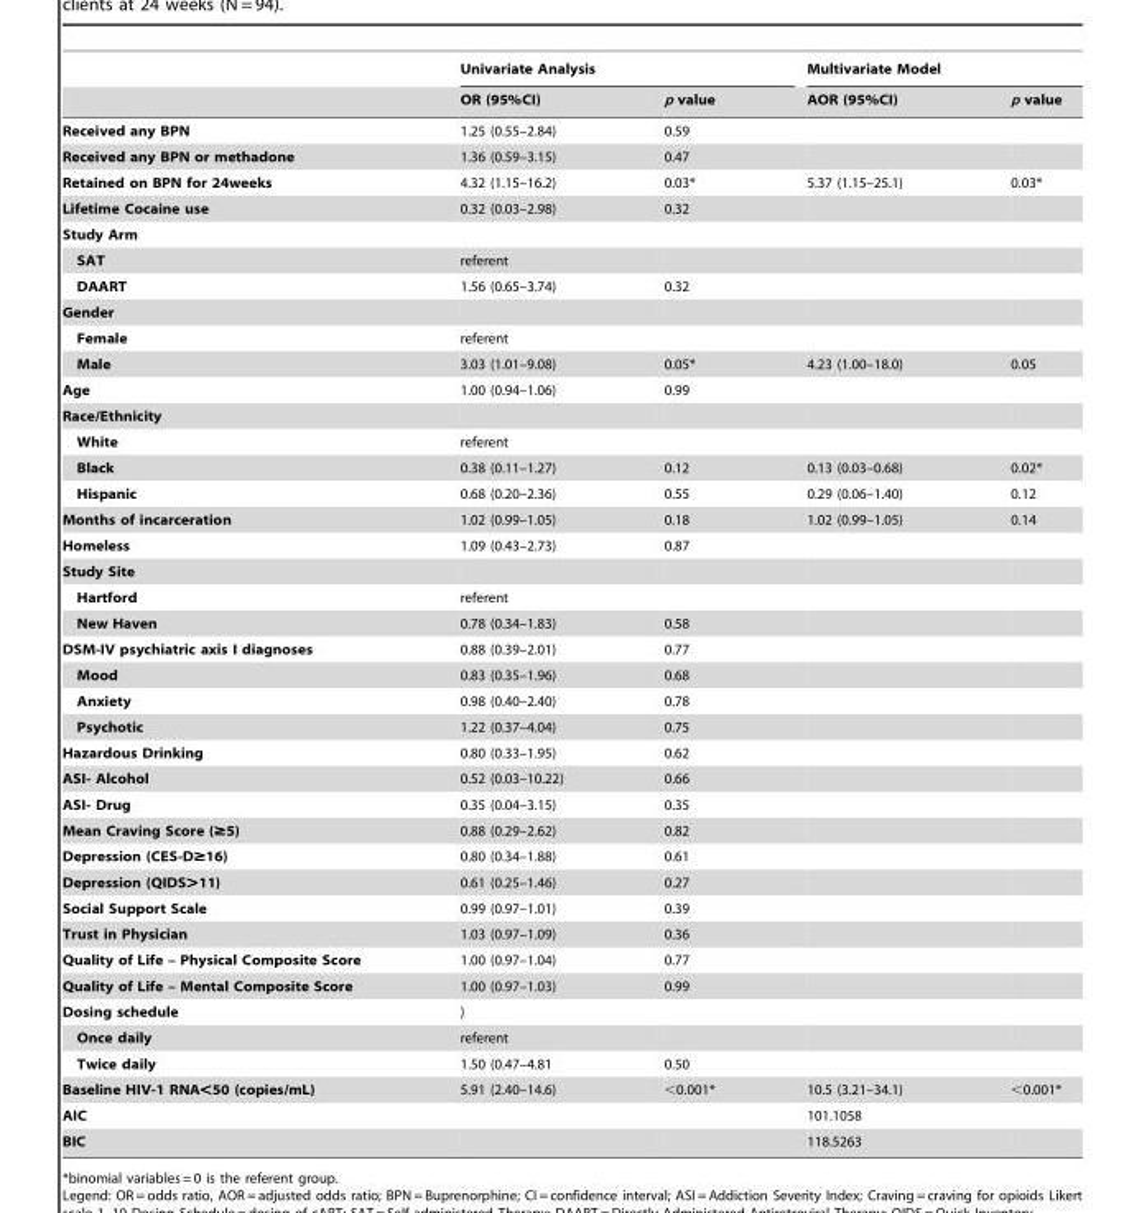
<table><thead><tr><td rowspan="2"></td><td colspan="2">Univariate Analysis</td><td colspan="2">Multivariate Model</td></tr><tr><td>OR (95%CI)</td><td>p value</td><td>AOR (95%CI)</td><td>p value</td></tr></thead><tbody><tr><td>Received any BPN</td><td>1.25 (0.55–2.84)</td><td>0.59</td><td></td><td></td></tr><tr><td>Received any BPN or methadone</td><td>1.36 (0.59–3.15)</td><td>0.47</td><td></td><td></td></tr><tr><td>Retained on BPN for 24weeks</td><td>4.32 (1.15–16.2)</td><td>0.03*</td><td>5.37 (1.15–25.1)</td><td>0.03*</td></tr><tr><td>Lifetime Cocaine use</td><td>0.32 (0.03–2.98)</td><td>0.32</td><td></td><td></td></tr><tr><td colspan="5">Study Arm</td></tr><tr><td>SAT</td><td>referent</td><td></td><td></td><td></td></tr><tr><td>DAART</td><td>1.56 (0.65–3.74)</td><td>0.32</td><td></td><td></td></tr><tr><td colspan="5">Gender</td></tr><tr><td>Female</td><td>referent</td><td></td><td></td><td></td></tr><tr><td>Male</td><td>3.03 (1.01–9.08)</td><td>0.05*</td><td>4.23 (1.00–18.0)</td><td>0.05</td></tr><tr><td>Age</td><td>1.00 (0.94–1.06)</td><td>0.99</td><td></td><td></td></tr><tr><td colspan="5">Race/Ethnicity</td></tr><tr><td>White</td><td>referent</td><td></td><td></td><td></td></tr><tr><td>Black</td><td>0.38 (0.11–1.27)</td><td>0.12</td><td>0.13 (0.03–0.68)</td><td>0.02*</td></tr><tr><td>Hispanic</td><td>0.68 (0.20–2.36)</td><td>0.55</td><td>0.29 (0.06–1.40)</td><td>0.12</td></tr><tr><td>Months of incarceration</td><td>1.02 (0.99–1.05)</td><td>0.18</td><td>1.02 (0.99–1.05)</td><td>0.14</td></tr><tr><td>Homeless</td><td>1.09 (0.43–2.73)</td><td>0.87</td><td></td><td></td></tr><tr><td colspan="5">Study Site</td></tr><tr><td>Hartford</td><td>referent</td><td></td><td></td><td></td></tr><tr><td>New Haven</td><td>0.78 (0.34–1.83)</td><td>0.58</td><td></td><td></td></tr><tr><td>DSM-IV psychiatric axis I diagnoses</td><td>0.88 (0.39–2.01)</td><td>0.77</td><td></td><td></td></tr><tr><td>Mood</td><td>0.83 (0.35–1.96)</td><td>0.68</td><td></td><td></td></tr><tr><td>Anxiety</td><td>0.98 (0.40–2.40)</td><td>0.78</td><td></td><td></td></tr><tr><td>Psychotic</td><td>1.22 (0.37–4.04)</td><td>0.75</td><td></td><td></td></tr><tr><td>Hazardous Drinking</td><td>0.80 (0.33–1.95)</td><td>0.62</td><td></td><td></td></tr><tr><td>ASI- Alcohol</td><td>0.52 (0.03–10.22)</td><td>0.66</td><td></td><td></td></tr><tr><td>ASI- Drug</td><td>0.35 (0.04–3.15)</td><td>0.35</td><td></td><td></td></tr><tr><td>Mean Craving Score (≥5)</td><td>0.88 (0.29–2.62)</td><td>0.82</td><td></td><td></td></tr><tr><td>Depression (CES-D≥16)</td><td>0.80 (0.34–1.88)</td><td>0.61</td><td></td><td></td></tr><tr><td>Depression (QIDS&gt;11)</td><td>0.61 (0.25–1.46)</td><td>0.27</td><td></td><td></td></tr><tr><td>Social Support Scale</td><td>0.99 (0.97–1.01)</td><td>0.39</td><td></td><td></td></tr><tr><td>Trust in Physician</td><td>1.03 (0.97–1.09)</td><td>0.36</td><td></td><td></td></tr><tr><td>Quality of Life – Physical Composite Score</td><td>1.00 (0.97–1.04)</td><td>0.77</td><td></td><td></td></tr><tr><td>Quality of Life – Mental Composite Score</td><td>1.00 (0.97–1.03)</td><td>0.99</td><td></td><td></td></tr><tr><td>Dosing schedule</td><td>)</td><td></td><td></td><td></td></tr><tr><td>Once daily</td><td>referent</td><td></td><td></td><td></td></tr><tr><td>Twice daily</td><td>1.50 (0.47–4.81</td><td>0.50</td><td></td><td></td></tr><tr><td>Baseline HIV-1 RNA&lt;50 (copies/mL)</td><td>5.91 (2.40–14.6)</td><td>&lt;0.001*</td><td>10.5 (3.21–34.1)</td><td>&lt;0.001*</td></tr><tr><td>AIC</td><td></td><td></td><td>101.1058</td><td></td></tr><tr><td>BIC</td><td></td><td></td><td>118.5263</td><td></td></tr></tbody></table>